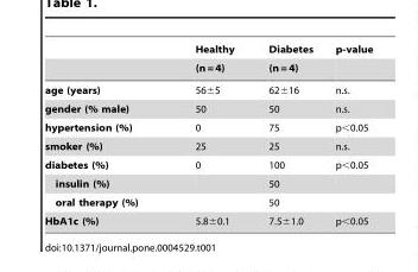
<table><thead><tr><td rowspan="2"></td><td rowspan="2">Healthy (n = 4)</td><td rowspan="2">Diabetes (n = 4)</td><td rowspan="2">p-value</td></tr><tr></tr></thead><tbody><tr><td>age (years)</td><td>56±5</td><td>62±16</td><td>n.s.</td></tr><tr><td>gender (% male)</td><td>50</td><td>50</td><td>n.s.</td></tr><tr><td>hypertension (%)</td><td>0</td><td>75</td><td>p&lt;0.05</td></tr><tr><td>smoker (%)</td><td>25</td><td>25</td><td>n.s.</td></tr><tr><td>diabetes (%)</td><td>0</td><td>100</td><td>p&lt;0.05</td></tr><tr><td>insulin (%)</td><td></td><td>50</td><td></td></tr><tr><td>oral therapy (%)</td><td></td><td>50</td><td></td></tr><tr><td>HbA1c (%)</td><td>5.8±0.1</td><td>7.5±1.0</td><td>p&lt;0.05</td></tr></tbody></table>